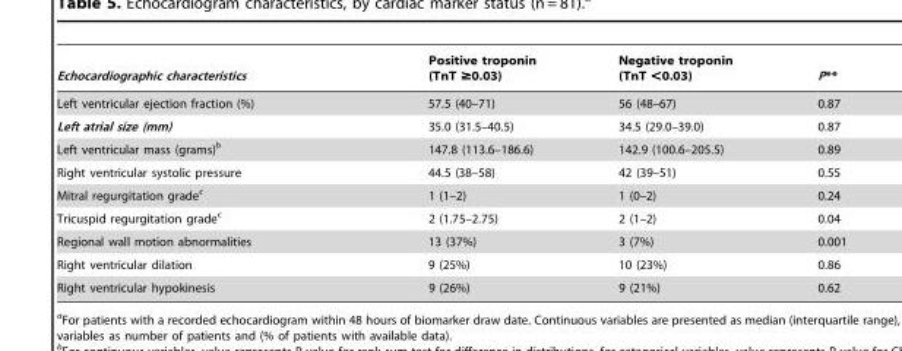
<table><thead><tr><td>Echocardiographic characteristics</td><td>Positive troponin (TnT ≥0.03)</td><td>Negative troponin (TnT &lt;0.03)</td><td>P**</td></tr></thead><tbody><tr><td>Left ventricular ejection fraction (%)</td><td>57.5 (40–71)</td><td>56 (48–67)</td><td>0.87</td></tr><tr><td>Left atrial size (mm)</td><td>35.0 (31.5–40.5)</td><td>34.5 (29.0–39.0)</td><td>0.87</td></tr><tr><td>Left ventricular mass (grams)<sup>b</sup></td><td>147.8 (113.6–186.6)</td><td>142.9 (100.6–205.5)</td><td>0.89</td></tr><tr><td>Right ventricular systolic pressure</td><td>44.5 (38–58)</td><td>42 (39–51)</td><td>0.55</td></tr><tr><td>Mitral regurgitation grade<sup>c</sup></td><td>1 (1–2)</td><td>1 (0–2)</td><td>0.24</td></tr><tr><td>Tricuspid regurgitation grade<sup>c</sup></td><td>2 (1.75–2.75)</td><td>2 (1–2)</td><td>0.04</td></tr><tr><td>Regional wall motion abnormalities</td><td>13 (37%)</td><td>3 (7%)</td><td>0.001</td></tr><tr><td>Right ventricular dilation</td><td>9 (25%)</td><td>10 (23%)</td><td>0.86</td></tr><tr><td>Right ventricular hypokinesis</td><td>9 (26%)</td><td>9 (21%)</td><td>0.62</td></tr></tbody></table>